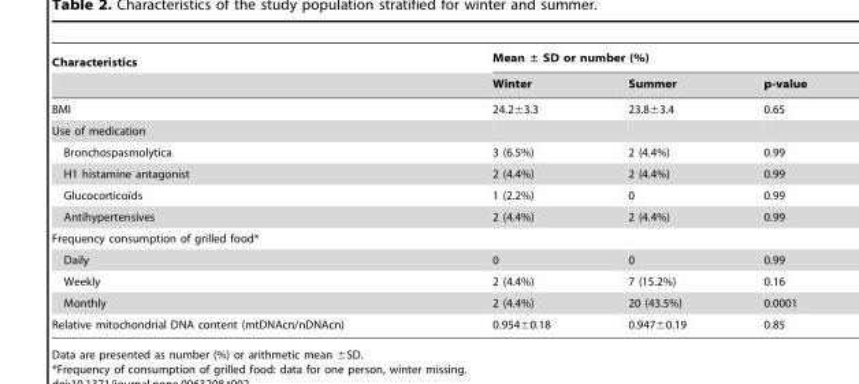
<table><thead><tr><td rowspan="2">Characteristics</td><td colspan="3">Mean ± SD or number (%)</td></tr><tr><td>Winter</td><td>Summer</td><td>p-value</td></tr></thead><tbody><tr><td>BMI</td><td>24.2±3.3</td><td>23.8±3.4</td><td>0.65</td></tr><tr><td colspan="4">Use of medication</td></tr><tr><td>Bronchospasmolytica</td><td>3 (6.5%)</td><td>2 (4.4%)</td><td>0.99</td></tr><tr><td>H1 histamine antagonist</td><td>2 (4.4%)</td><td>2 (4.4%)</td><td>0.99</td></tr><tr><td>Glucocorticoı¨ds</td><td>1 (2.2%)</td><td>0</td><td>0.99</td></tr><tr><td>Antihypertensives</td><td>2 (4.4%)</td><td>2 (4.4%)</td><td>0.99</td></tr><tr><td colspan="4">Frequency consumption of grilled food*</td></tr><tr><td>Daily</td><td>0</td><td>0</td><td>0.99</td></tr><tr><td>Weekly</td><td>2 (4.4%)</td><td>7 (15.2%)</td><td>0.16</td></tr><tr><td>Monthly</td><td>2 (4.4%)</td><td>20 (43.5%)</td><td>0.0001</td></tr><tr><td>Relative mitochondrial DNA content (mtDNAcn/nDNAcn)</td><td>0.954±0.18</td><td>0.947±0.19</td><td>0.85</td></tr></tbody></table>